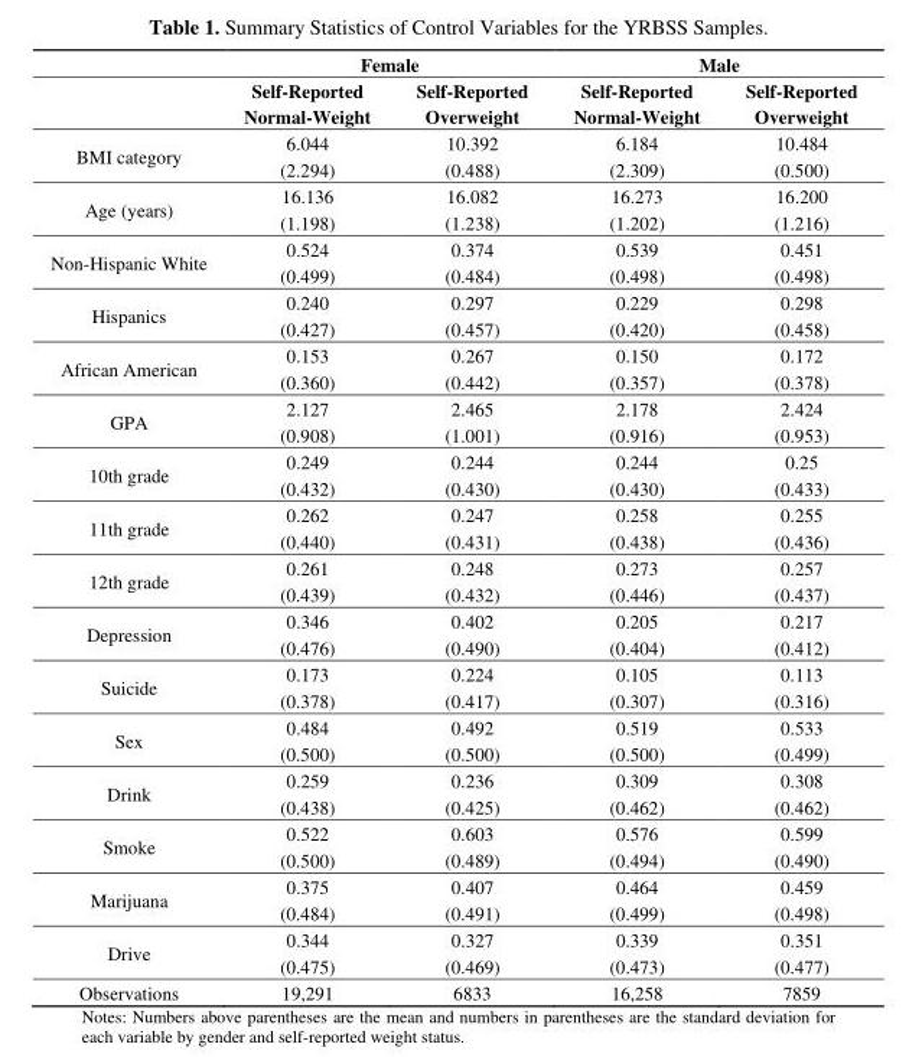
<table><thead><tr><td rowspan="2"></td><td colspan="2">Female</td><td colspan="2">Male</td></tr><tr><td>Self-Reported Normal-Weight</td><td>Self-Reported Overweight</td><td>Self-Reported Normal-Weight</td><td>Self-Reported Overweight</td></tr></thead><tbody><tr><td rowspan="2">BMI category</td><td>6.044</td><td>10.392</td><td>6.184</td><td>10.484</td></tr><tr><td>(2.294)</td><td>(0.488)</td><td>(2.309)</td><td>(0.500)</td></tr><tr><td rowspan="2">Age (years)</td><td>16.136</td><td>16.082</td><td>16.273</td><td>16.200</td></tr><tr><td>(1.198)</td><td>(1.238)</td><td>(1.202)</td><td>(1.216)</td></tr><tr><td rowspan="2">Non-Hispanic White</td><td>0.524</td><td>0.374</td><td>0.539</td><td>0.451</td></tr><tr><td>(0.499)</td><td>(0.484)</td><td>(0.498)</td><td>(0.498)</td></tr><tr><td rowspan="2">Hispanics</td><td>0.240</td><td>0.297</td><td>0.229</td><td>0.298</td></tr><tr><td>(0.427)</td><td>(0.457)</td><td>(0.420)</td><td>(0.458)</td></tr><tr><td rowspan="2">African American</td><td>0.153</td><td>0.267</td><td>0.150</td><td>0.172</td></tr><tr><td>(0.360)</td><td>(0.442)</td><td>(0.357)</td><td>(0.378)</td></tr><tr><td rowspan="2">GPA</td><td>2.127</td><td>2.465</td><td>2.178</td><td>2.424</td></tr><tr><td>(0.908)</td><td>(1.001)</td><td>(0.916)</td><td>(0.953)</td></tr><tr><td rowspan="2">10th grade</td><td>0.249</td><td>0.244</td><td>0.244</td><td>0.25</td></tr><tr><td>(0.432)</td><td>(0.430)</td><td>(0.430)</td><td>(0.433)</td></tr><tr><td rowspan="2">11th grade</td><td>0.262</td><td>0.247</td><td>0.258</td><td>0.255</td></tr><tr><td>(0.440)</td><td>(0.431)</td><td>(0.438)</td><td>(0.436)</td></tr><tr><td rowspan="2">12th grade</td><td>0.261</td><td>0.248</td><td>0.273</td><td>0.257</td></tr><tr><td>(0.439)</td><td>(0.432)</td><td>(0.446)</td><td>(0.437)</td></tr><tr><td rowspan="2">Depression</td><td>0.346</td><td>0.402</td><td>0.205</td><td>0.217</td></tr><tr><td>(0.476)</td><td>(0.490)</td><td>(0.404)</td><td>(0.412)</td></tr><tr><td rowspan="2">Suicide</td><td>0.173</td><td>0.224</td><td>0.105</td><td>0.113</td></tr><tr><td>(0.378)</td><td>(0.417)</td><td>(0.307)</td><td>(0.316)</td></tr><tr><td rowspan="2">Sex</td><td>0.484</td><td>0.492</td><td>0.519</td><td>0.533</td></tr><tr><td>(0.500)</td><td>(0.500)</td><td>(0.500)</td><td>(0.499)</td></tr><tr><td rowspan="2">Drink</td><td>0.259</td><td>0.236</td><td>0.309</td><td>0.308</td></tr><tr><td>(0.438)</td><td>(0.425)</td><td>(0.462)</td><td>(0.462)</td></tr><tr><td rowspan="2">Smoke</td><td>0.522</td><td>0.603</td><td>0.576</td><td>0.599</td></tr><tr><td>(0.500)</td><td>(0.489)</td><td>(0.494)</td><td>(0.490)</td></tr><tr><td rowspan="2">Marijuana</td><td>0.375</td><td>0.407</td><td>0.464</td><td>0.459</td></tr><tr><td>(0.484)</td><td>(0.491)</td><td>(0.499)</td><td>(0.498)</td></tr><tr><td rowspan="2">Drive</td><td>0.344</td><td>0.327</td><td>0.339</td><td>0.351</td></tr><tr><td>(0.475)</td><td>(0.469)</td><td>(0.473)</td><td>(0.477)</td></tr><tr><td>Observations</td><td>19,291</td><td>6833</td><td>16,258</td><td>7859</td></tr></tbody></table>